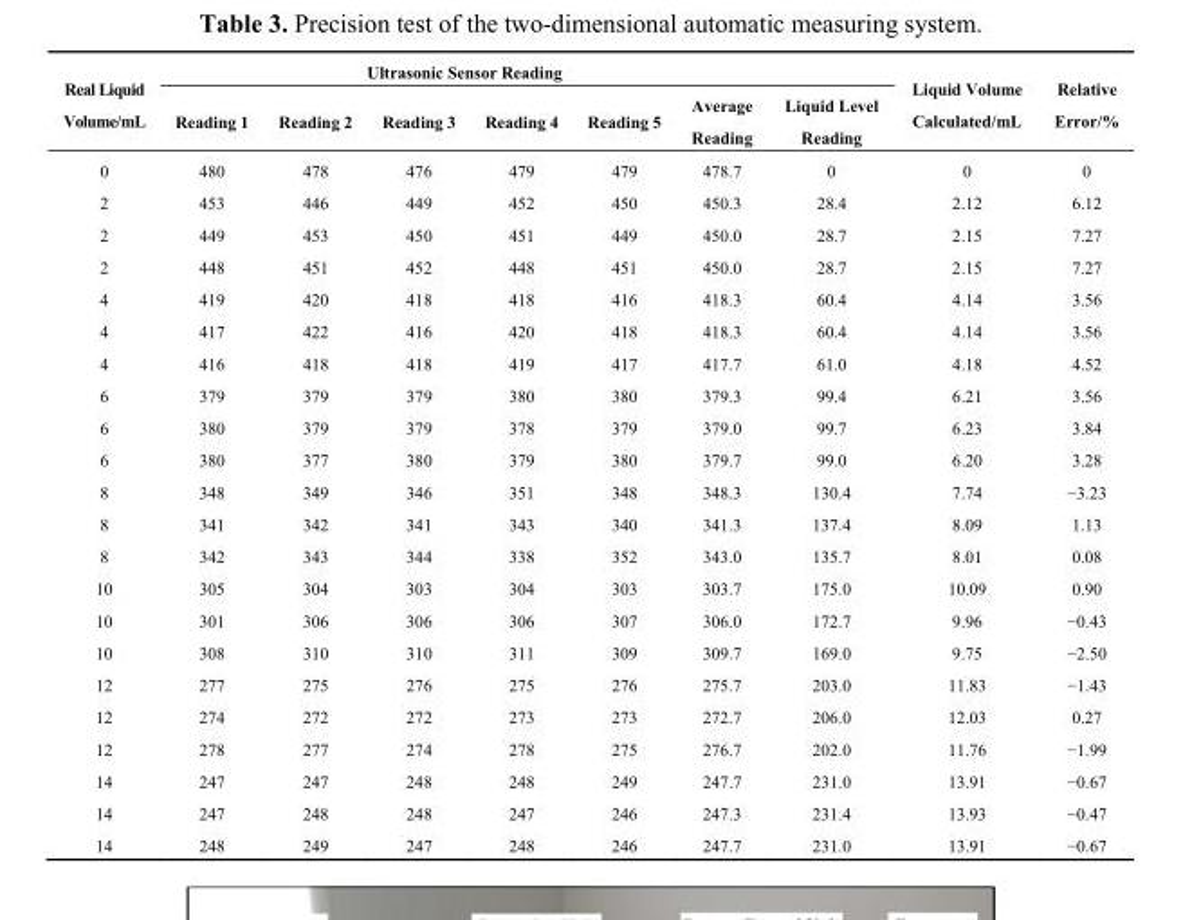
<table><thead><tr><td rowspan="2">Real Liquid Volume/mL</td><td colspan="6">Ultrasonic Sensor Reading</td><td rowspan="2">Liquid Level Reading</td><td rowspan="2">Liquid Volume Calculated/mL</td><td rowspan="2">Relative Error/%</td></tr><tr><td>Reading 1</td><td>Reading 2</td><td>Reading 3</td><td>Reading 4</td><td>Reading 5</td><td>Average Reading</td></tr></thead><tbody><tr><td>0</td><td>480</td><td>478</td><td>476</td><td>479</td><td>479</td><td>478.7</td><td>0</td><td>0</td><td>0</td></tr><tr><td>2</td><td>453</td><td>446</td><td>449</td><td>452</td><td>450</td><td>450.3</td><td>28.4</td><td>2.12</td><td>6.12</td></tr><tr><td>2</td><td>449</td><td>453</td><td>450</td><td>451</td><td>449</td><td>450.0</td><td>28.7</td><td>2.15</td><td>7.27</td></tr><tr><td>2</td><td>448</td><td>451</td><td>452</td><td>448</td><td>451</td><td>450.0</td><td>28.7</td><td>2.15</td><td>7.27</td></tr><tr><td>4</td><td>419</td><td>420</td><td>418</td><td>418</td><td>416</td><td>418.3</td><td>60.4</td><td>4.14</td><td>3.56</td></tr><tr><td>4</td><td>417</td><td>422</td><td>416</td><td>420</td><td>418</td><td>418.3</td><td>60.4</td><td>4.14</td><td>3.56</td></tr><tr><td>4</td><td>416</td><td>418</td><td>418</td><td>419</td><td>417</td><td>417.7</td><td>61.0</td><td>4.18</td><td>4.52</td></tr><tr><td>6</td><td>379</td><td>379</td><td>379</td><td>380</td><td>380</td><td>379.3</td><td>99.4</td><td>6.21</td><td>3.56</td></tr><tr><td>6</td><td>380</td><td>379</td><td>379</td><td>378</td><td>379</td><td>379.0</td><td>99.7</td><td>6.23</td><td>3.84</td></tr><tr><td>6</td><td>380</td><td>377</td><td>380</td><td>379</td><td>380</td><td>379.7</td><td>99.0</td><td>6.20</td><td>3.28</td></tr><tr><td>8</td><td>348</td><td>349</td><td>346</td><td>351</td><td>348</td><td>348.3</td><td>130.4</td><td>7.74</td><td>−3.23</td></tr><tr><td>8</td><td>341</td><td>342</td><td>341</td><td>343</td><td>340</td><td>341.3</td><td>137.4</td><td>8.09</td><td>1.13</td></tr><tr><td>8</td><td>342</td><td>343</td><td>344</td><td>338</td><td>352</td><td>343.0</td><td>135.7</td><td>8.01</td><td>0.08</td></tr><tr><td>10</td><td>305</td><td>304</td><td>303</td><td>304</td><td>303</td><td>303.7</td><td>175.0</td><td>10.09</td><td>0.90</td></tr><tr><td>10</td><td>301</td><td>306</td><td>306</td><td>306</td><td>307</td><td>306.0</td><td>172.7</td><td>9.96</td><td>−0.43</td></tr><tr><td>10</td><td>308</td><td>310</td><td>310</td><td>311</td><td>309</td><td>309.7</td><td>169.0</td><td>9.75</td><td>−2.50</td></tr><tr><td>12</td><td>277</td><td>275</td><td>276</td><td>275</td><td>276</td><td>275.7</td><td>203.0</td><td>11.83</td><td>−1.43</td></tr><tr><td>12</td><td>274</td><td>272</td><td>272</td><td>273</td><td>273</td><td>272.7</td><td>206.0</td><td>12.03</td><td>0.27</td></tr><tr><td>12</td><td>278</td><td>277</td><td>274</td><td>278</td><td>275</td><td>276.7</td><td>202.0</td><td>11.76</td><td>−1.99</td></tr><tr><td>14</td><td>247</td><td>247</td><td>248</td><td>248</td><td>249</td><td>247.7</td><td>231.0</td><td>13.91</td><td>−0.67</td></tr><tr><td>14</td><td>247</td><td>248</td><td>248</td><td>247</td><td>246</td><td>247.3</td><td>231.4</td><td>13.93</td><td>−0.47</td></tr><tr><td>14</td><td>248</td><td>249</td><td>247</td><td>248</td><td>246</td><td>247.7</td><td>231.0</td><td>13.91</td><td>−0.67</td></tr></tbody></table>